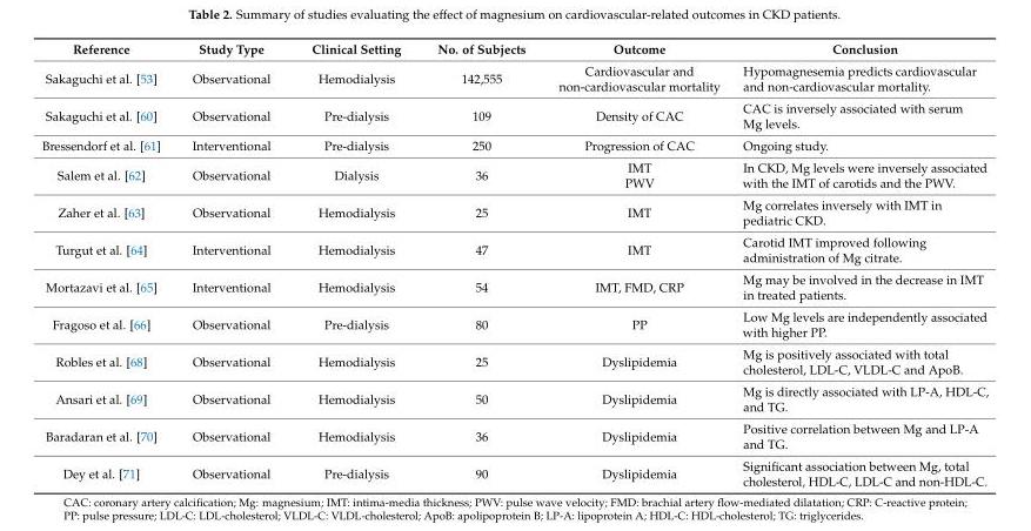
<table><thead><tr><td>Reference</td><td>Study Type</td><td>Clinical Setting</td><td>No. of Subjects</td><td>Outcome</td><td>Conclusion</td></tr></thead><tbody><tr><td>Sakaguchi et al. [53]</td><td>Observational</td><td>Hemodialysis</td><td>142,555</td><td>Cardiovascular and non-cardiovascular mortality</td><td>Hypomagnesemia predicts cardiovascular and non-cardiovascular mortality.</td></tr><tr><td>Sakaguchi et al. [60]</td><td>Observational</td><td>Pre-dialysis</td><td>109</td><td>Density of CAC</td><td>CAC is inversely associated with serum Mg levels.</td></tr><tr><td>Bressendorf et al. [61]</td><td>Interventional</td><td>Pre-dialysis</td><td>250</td><td>Progression of CAC</td><td>Ongoing study.</td></tr><tr><td>Salem et al. [62]</td><td>Observational</td><td>Dialysis</td><td>36</td><td>IMT PWV</td><td>In CKD, Mg levels were inversely associated with the IMT of carotids and the PWV.</td></tr><tr><td>Zaher et al. [63]</td><td>Observational</td><td>Hemodialysis</td><td>25</td><td>IMT</td><td>Mg correlates inversely with IMT in pediatric CKD.</td></tr><tr><td>Turgut et al. [64]</td><td>Interventional</td><td>Hemodialysis</td><td>47</td><td>IMT</td><td>Carotid IMT improved following administration of Mg citrate.</td></tr><tr><td>Mortazavi et al. [65]</td><td>Interventional</td><td>Hemodialysis</td><td>54</td><td>IMT, FMD, CRP</td><td>Mg may be involved in the decrease in IMT in treated patients.</td></tr><tr><td>Fragoso et al. [66]</td><td>Observational</td><td>Pre-dialysis</td><td>80</td><td>PP</td><td>Low Mg levels are independently associated with higher PP.</td></tr><tr><td>Robles et al. [68]</td><td>Observational</td><td>Hemodialysis</td><td>25</td><td>Dyslipidemia</td><td>Mg is positively associated with total cholesterol, LDL-C, VLDL-C and ApoB.</td></tr><tr><td>Ansari et al. [69]</td><td>Observational</td><td>Hemodialysis</td><td>50</td><td>Dyslipidemia</td><td>Mg is directly associated with LP-A, HDL-C, and TG.</td></tr><tr><td>Baradaran et al. [70]</td><td>Observational</td><td>Hemodialysis</td><td>36</td><td>Dyslipidemia</td><td>Positive correlation between Mg and LP-A and TG.</td></tr><tr><td>Dey et al. [71]</td><td>Observational</td><td>Pre-dialysis</td><td>90</td><td>Dyslipidemia</td><td>Significant association between Mg, total cholesterol, HDL-C, LDL-C and non-HDL-C.</td></tr></tbody></table>